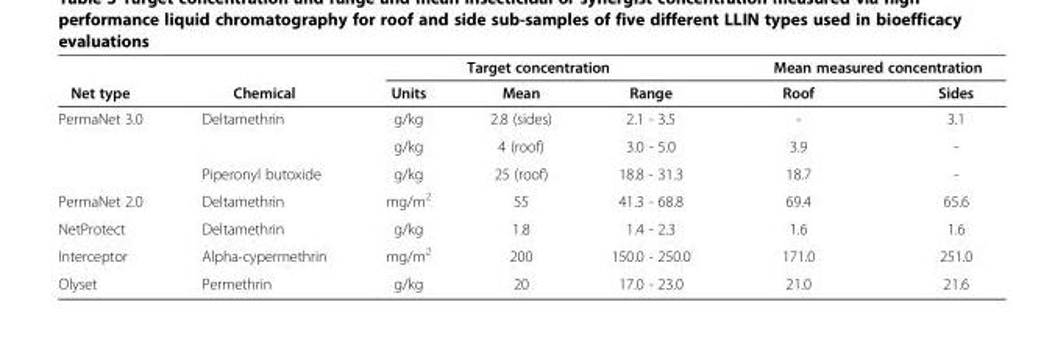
<table><thead><tr><td rowspan="2">Net type</td><td rowspan="2">Chemical</td><td colspan="3">Target concentration</td><td colspan="2">Mean measured concentration</td></tr><tr><td>Units</td><td>Mean</td><td>Range</td><td>Roof</td><td>Sides</td></tr></thead><tbody><tr><td rowspan="3">PermaNet 3.0</td><td rowspan="2">Deltamethrin</td><td>g/kg</td><td>2.8 (sides)</td><td>2.1 - 3.5</td><td>-</td><td>3.1</td></tr><tr><td>g/kg</td><td>4 (roof)</td><td>3.0 - 5.0</td><td>3.9</td><td>-</td></tr><tr><td>Piperonyl butoxide</td><td>g/kg</td><td>25 (roof)</td><td>18.8 - 31.3</td><td>18.7</td><td>-</td></tr><tr><td>PermaNet 2.0</td><td>Deltamethrin</td><td>mg/m<sup>2</sup></td><td>55</td><td>41.3 - 68.8</td><td>69.4</td><td>65.6</td></tr><tr><td>NetProtect</td><td>Deltamethrin</td><td>g/kg</td><td>1.8</td><td>1.4 - 2.3</td><td>1.6</td><td>1.6</td></tr><tr><td>Interceptor</td><td>Alpha-cypermethrin</td><td>mg/m<sup>2</sup></td><td>200</td><td>150.0 - 250.0</td><td>171.0</td><td>251.0</td></tr><tr><td>Olyset</td><td>Permethrin</td><td>g/kg</td><td>20</td><td>17.0 - 23.0</td><td>21.0</td><td>21.6</td></tr></tbody></table>